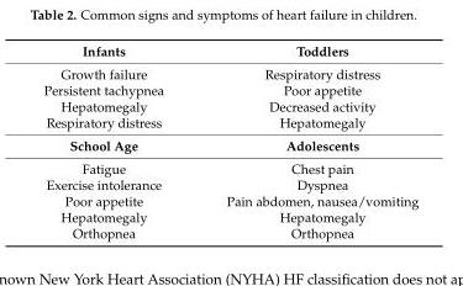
<table><thead><tr><td>Infants</td><td>Toddlers</td></tr></thead><tbody><tr><td>Growth failure</td><td>Respiratory distress</td></tr><tr><td>Persistent tachypnea</td><td>Poor appetite</td></tr><tr><td>Hepatomegaly</td><td>Decreased activity</td></tr><tr><td>Respiratory distress</td><td>Hepatomegaly</td></tr><tr><td>School Age</td><td>Adolescents</td></tr><tr><td>Fatigue</td><td>Chest pain</td></tr><tr><td>Exercise intolerance</td><td>Dyspnea</td></tr><tr><td>Poor appetite</td><td>Pain abdomen, nausea/vomiting</td></tr><tr><td>Hepatomegaly</td><td>Hepatomegaly</td></tr><tr><td>Orthopnea</td><td>Orthopnea</td></tr></tbody></table>